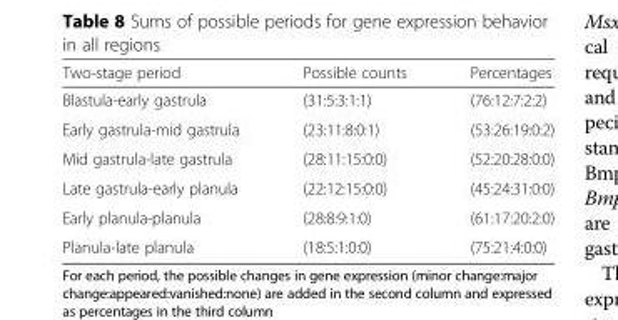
<table><thead><tr><td>Two-stage period</td><td>Possible counts</td><td>Percentages</td></tr></thead><tbody><tr><td>Blastula-early gastrula</td><td>(31:5:3:1:1)</td><td>(76:12:7:2:2)</td></tr><tr><td>Early gastrula-mid gastrula</td><td>(23:11:8:0:1)</td><td>(53:26:19:0:2)</td></tr><tr><td>Mid gastrula-late gastrula</td><td>(28:11:15:0:0)</td><td>(52:20:28:0:0)</td></tr><tr><td>Late gastrula-early planula</td><td>(22:12:15:0:0)</td><td>(45:24:31:0:0)</td></tr><tr><td>Early planula-planula</td><td>(28:8:9:1:0)</td><td>(61:17:20:2:0)</td></tr><tr><td>Planula-late planula</td><td>(18:5:1:0:0)</td><td>(75:21:4:0:0)</td></tr></tbody></table>